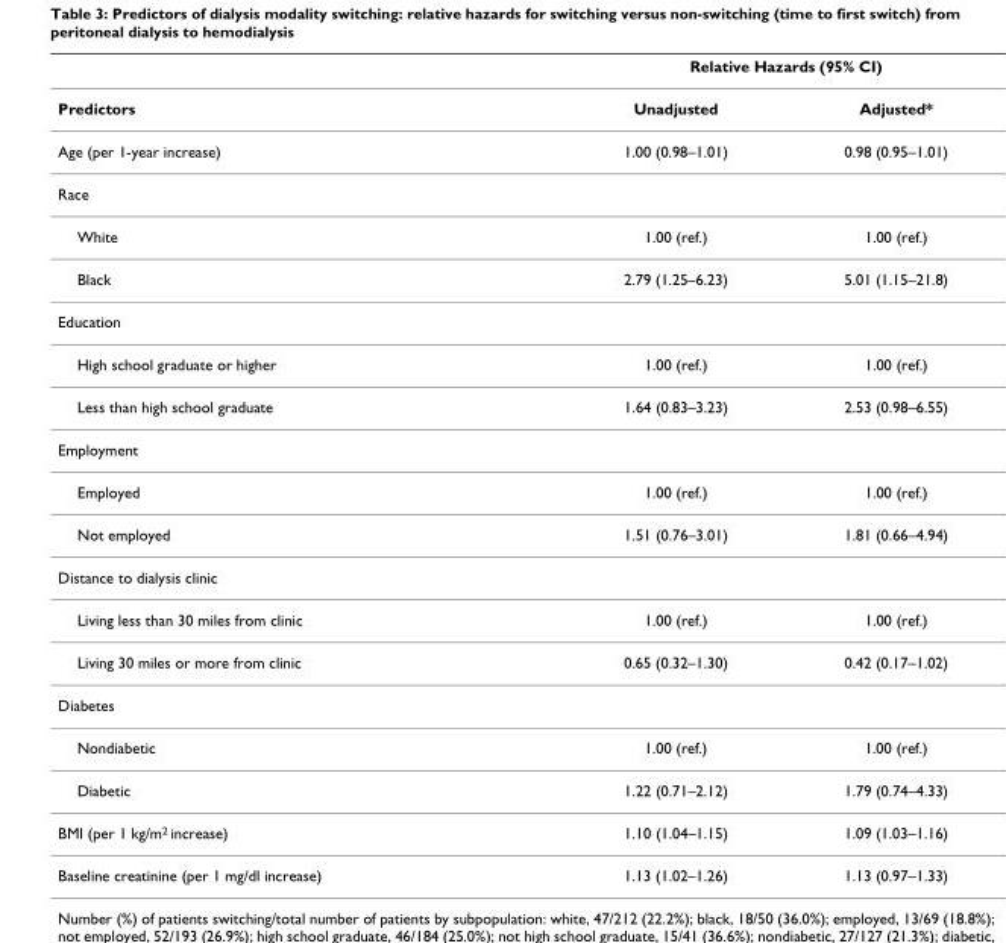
<table><thead><tr><td rowspan="2">Predictors</td><td colspan="2">Relative Hazards (95% CI)</td></tr><tr><td>Unadjusted</td><td>Adjusted*</td></tr></thead><tbody><tr><td>Age (per 1-year increase)</td><td>1.00 (0.98–1.01)</td><td>0.98 (0.95–1.01)</td></tr><tr><td colspan="3">Race</td></tr><tr><td>White</td><td>1.00 (ref.)</td><td>1.00 (ref.)</td></tr><tr><td>Black</td><td>2.79 (1.25–6.23)</td><td>5.01 (1.15–21.8)</td></tr><tr><td colspan="3">Education</td></tr><tr><td>High school graduate or higher</td><td>1.00 (ref.)</td><td>1.00 (ref.)</td></tr><tr><td>Less than high school graduate</td><td>1.64 (0.83–3.23)</td><td>2.53 (0.98–6.55)</td></tr><tr><td colspan="3">Employment</td></tr><tr><td>Employed</td><td>1.00 (ref.)</td><td>1.00 (ref.)</td></tr><tr><td>Not employed</td><td>1.51 (0.76–3.01)</td><td>1.81 (0.66–4.94)</td></tr><tr><td colspan="3">Distance to dialysis clinic</td></tr><tr><td>Living less than 30 miles from clinic</td><td>1.00 (ref.)</td><td>1.00 (ref.)</td></tr><tr><td>Living 30 miles or more from clinic</td><td>0.65 (0.32–1.30)</td><td>0.42 (0.17–1.02)</td></tr><tr><td colspan="3">Diabetes</td></tr><tr><td>Nondiabetic</td><td>1.00 (ref.)</td><td>1.00 (ref.)</td></tr><tr><td>Diabetic</td><td>1.22 (0.71–2.12)</td><td>1.79 (0.74–4.33)</td></tr><tr><td>BMI (per 1 kg/m<sup>2</sup> increase)</td><td>1.10 (1.04–1.15)</td><td>1.09 (1.03–1.16)</td></tr><tr><td>Baseline creatinine (per 1 mg/dl increase)</td><td>1.13 (1.02–1.26)</td><td>1.13 (0.97–1.33)</td></tr></tbody></table>